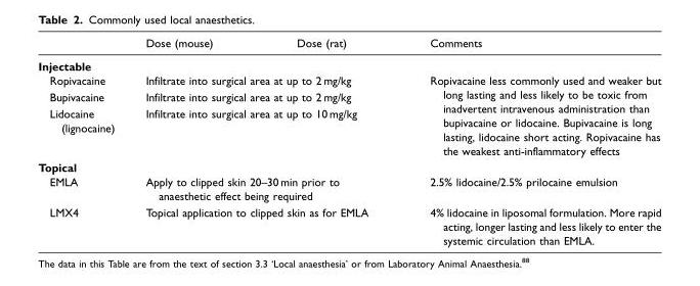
<table><thead><tr><td></td><td>Dose (mouse)</td><td>Dose (rat)</td><td>Comments</td></tr></thead><tbody><tr><td colspan="4">Injectable</td></tr><tr><td>Ropivacaine</td><td colspan="2">Infiltrate into surgical area at up to 2 mg/kg</td><td rowspan="3">Ropivacaine less commonly used and weaker but long lasting and less likely to be toxic from inadvertent intravenous administration than bupivacaine or lidocaine. Bupivacaine is long lasting, lidocaine short acting. Ropivacaine has the weakest anti-inflammatory effects</td></tr><tr><td>Bupivacaine</td><td colspan="2">Infiltrate into surgical area at up to 2 mg/kg</td></tr><tr><td>Lidocaine (lignocaine)</td><td colspan="2">Infiltrate into surgical area at up to 10 mg/kg</td></tr><tr><td colspan="4">Topical</td></tr><tr><td>EMLA</td><td colspan="2">Apply to clipped skin 20–30 min prior to anaesthetic effect being required</td><td>2.5% lidocaine/2.5% prilocaine emulsion</td></tr><tr><td>LMX4</td><td colspan="2">Topical application to clipped skin as for EMLA</td><td>4% lidocaine in liposomal formulation. More rapid acting, longer lasting and less likely to enter the systemic circulation than EMLA.</td></tr></tbody></table>